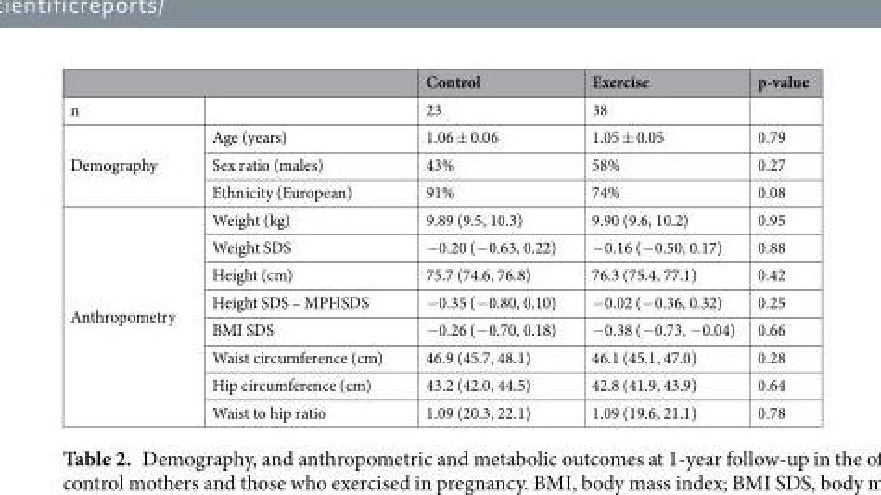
<table><thead><tr><td></td><td></td><td>Control</td><td>Exercise</td><td>p-value</td></tr></thead><tbody><tr><td>n</td><td></td><td>23</td><td>38</td><td></td></tr><tr><td rowspan="3">Demography</td><td>Age (years)</td><td>1.06 ± 0.06</td><td>1.05 ± 0.05</td><td>0.79</td></tr><tr><td>Sex ratio (males)</td><td>43%</td><td>58%</td><td>0.27</td></tr><tr><td>Ethnicity (European)</td><td>91%</td><td>74%</td><td>0.08</td></tr><tr><td rowspan="8">Anthropometry</td><td>Weight (kg)</td><td>9.89 (9.5, 10.3)</td><td>9.90 (9.6, 10.2)</td><td>0.95</td></tr><tr><td>Weight SDS</td><td>−0.20 (−0.63, 0.22)</td><td>−0.16 (−0.50, 0.17)</td><td>0.88</td></tr><tr><td>Height (cm)</td><td>75.7 (74.6, 76.8)</td><td>76.3 (75.4, 77.1)</td><td>0.42</td></tr><tr><td>Height SDS – MPHSDS</td><td>−0.35 (−0.80, 0.10)</td><td>−0.02 (−0.36, 0.32)</td><td>0.25</td></tr><tr><td>BMI SDS</td><td>−0.26 (−0.70, 0.18)</td><td>−0.38 (−0.73, −0.04)</td><td>0.66</td></tr><tr><td>Waist circumference (cm)</td><td>46.9 (45.7, 48.1)</td><td>46.1 (45.1, 47.0)</td><td>0.28</td></tr><tr><td>Hip circumference (cm)</td><td>43.2 (42.0, 44.5)</td><td>42.8 (41.9, 43.9)</td><td>0.64</td></tr><tr><td>Waist to hip ratio</td><td>1.09 (20.3, 22.1)</td><td>1.09 (19.6, 21.1)</td><td>0.78</td></tr></tbody></table>